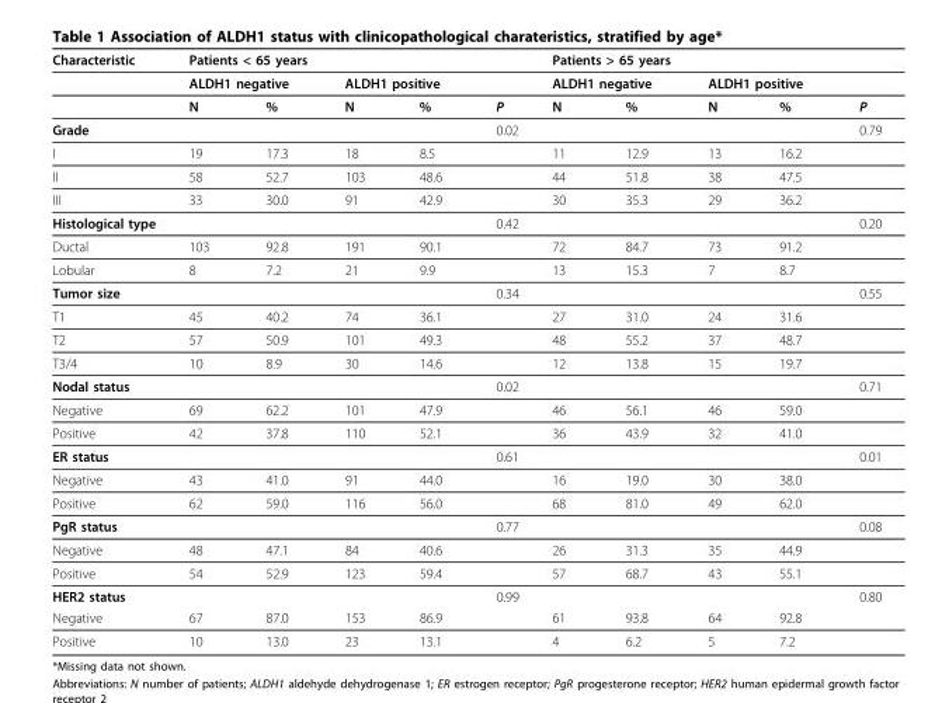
<table><thead><tr><td rowspan="3">Characteristic</td><td colspan="5">Patients &lt; 65 years</td><td colspan="5">Patients &gt; 65 years</td></tr><tr><td colspan="2">ALDH1 negative</td><td colspan="2">ALDH1 positive</td><td rowspan="2">P</td><td colspan="2">ALDH1 negative</td><td colspan="2">ALDH1 positive</td><td rowspan="2">P</td></tr><tr><td>N</td><td>%</td><td>N</td><td>%</td><td>N</td><td>%</td><td>N</td><td>%</td></tr></thead><tbody><tr><td>Grade</td><td></td><td></td><td></td><td></td><td>0.02</td><td></td><td></td><td></td><td></td><td>0.79</td></tr><tr><td>I</td><td>19</td><td>17.3</td><td>18</td><td>8.5</td><td></td><td>11</td><td>12.9</td><td>13</td><td>16.2</td><td></td></tr><tr><td>II</td><td>58</td><td>52.7</td><td>103</td><td>48.6</td><td></td><td>44</td><td>51.8</td><td>38</td><td>47.5</td><td></td></tr><tr><td>III</td><td>33</td><td>30.0</td><td>91</td><td>42.9</td><td></td><td>30</td><td>35.3</td><td>29</td><td>36.2</td><td></td></tr><tr><td>Histological type</td><td></td><td></td><td></td><td></td><td>0.42</td><td></td><td></td><td></td><td></td><td>0.20</td></tr><tr><td>Ductal</td><td>103</td><td>92.8</td><td>191</td><td>90.1</td><td></td><td>72</td><td>84.7</td><td>73</td><td>91.2</td><td></td></tr><tr><td>Lobular</td><td>8</td><td>7.2</td><td>21</td><td>9.9</td><td></td><td>13</td><td>15.3</td><td>7</td><td>8.7</td><td></td></tr><tr><td>Tumor size</td><td></td><td></td><td></td><td></td><td>0.34</td><td></td><td></td><td></td><td></td><td>0.55</td></tr><tr><td>T1</td><td>45</td><td>40.2</td><td>74</td><td>36.1</td><td></td><td>27</td><td>31.0</td><td>24</td><td>31.6</td><td></td></tr><tr><td>T2</td><td>57</td><td>50.9</td><td>101</td><td>49.3</td><td></td><td>48</td><td>55.2</td><td>37</td><td>48.7</td><td></td></tr><tr><td>T3/4</td><td>10</td><td>8.9</td><td>30</td><td>14.6</td><td></td><td>12</td><td>13.8</td><td>15</td><td>19.7</td><td></td></tr><tr><td>Nodal status</td><td></td><td></td><td></td><td></td><td>0.02</td><td></td><td></td><td></td><td></td><td>0.71</td></tr><tr><td>Negative</td><td>69</td><td>62.2</td><td>101</td><td>47.9</td><td></td><td>46</td><td>56.1</td><td>46</td><td>59.0</td><td></td></tr><tr><td>Positive</td><td>42</td><td>37.8</td><td>110</td><td>52.1</td><td></td><td>36</td><td>43.9</td><td>32</td><td>41.0</td><td></td></tr><tr><td>ER status</td><td></td><td></td><td></td><td></td><td>0.61</td><td></td><td></td><td></td><td></td><td>0.01</td></tr><tr><td>Negative</td><td>43</td><td>41.0</td><td>91</td><td>44.0</td><td></td><td>16</td><td>19.0</td><td>30</td><td>38.0</td><td></td></tr><tr><td>Positive</td><td>62</td><td>59.0</td><td>116</td><td>56.0</td><td></td><td>68</td><td>81.0</td><td>49</td><td>62.0</td><td></td></tr><tr><td>PgR status</td><td></td><td></td><td></td><td></td><td>0.77</td><td></td><td></td><td></td><td></td><td>0.08</td></tr><tr><td>Negative</td><td>48</td><td>47.1</td><td>84</td><td>40.6</td><td></td><td>26</td><td>31.3</td><td>35</td><td>44.9</td><td></td></tr><tr><td>Positive</td><td>54</td><td>52.9</td><td>123</td><td>59.4</td><td></td><td>57</td><td>68.7</td><td>43</td><td>55.1</td><td></td></tr><tr><td>HER2 status</td><td></td><td></td><td></td><td></td><td>0.99</td><td></td><td></td><td></td><td></td><td>0.80</td></tr><tr><td>Negative</td><td>67</td><td>87.0</td><td>153</td><td>86.9</td><td></td><td>61</td><td>93.8</td><td>64</td><td>92.8</td><td></td></tr><tr><td>Positive</td><td>10</td><td>13.0</td><td>23</td><td>13.1</td><td></td><td>4</td><td>6.2</td><td>5</td><td>7.2</td><td></td></tr></tbody></table>